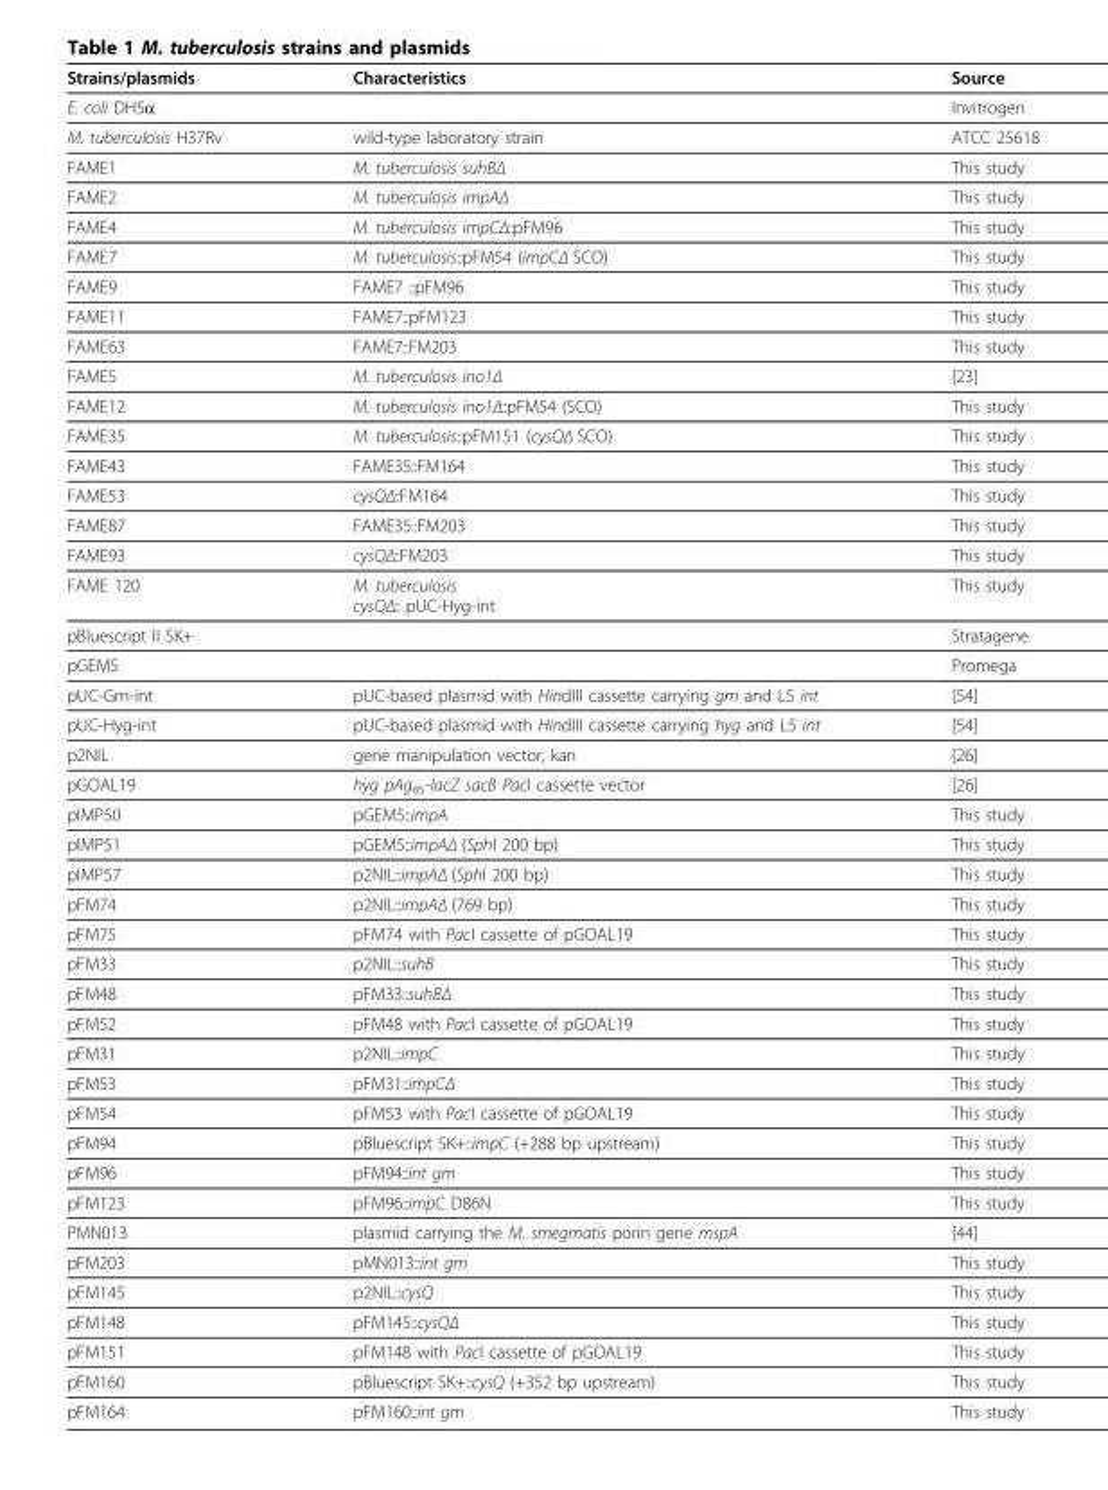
<table><thead><tr><td>Strains/plasmids</td><td>Characteristics</td><td>Source</td></tr></thead><tbody><tr><td>E. coli DH5α</td><td></td><td>Invitrogen</td></tr><tr><td>M. tuberculosis H37Rv</td><td>wild-type laboratory strain</td><td>ATCC 25618</td></tr><tr><td>FAME1</td><td>M. tuberculosis suhBΔ</td><td>This study</td></tr><tr><td>FAME2</td><td>M. tuberculosis impAΔ</td><td>This study</td></tr><tr><td>FAME4</td><td>M. tuberculosis impCΔ::pFM96</td><td>This study</td></tr><tr><td>FAME7</td><td>M. tuberculosis::pFM54 (impCΔ SCO)</td><td>This study</td></tr><tr><td>FAME9</td><td>FAME7 ::pFM96</td><td>This study</td></tr><tr><td>FAME11</td><td>FAME7::pFM123</td><td>This study</td></tr><tr><td>FAME63</td><td>FAME7::FM203</td><td>This study</td></tr><tr><td>FAME5</td><td>M. tuberculosis ino1Δ</td><td>[23]</td></tr><tr><td>FAME12</td><td>M. tuberculosis ino1Δ::pFM54 (SCO)</td><td>This study</td></tr><tr><td>FAME35</td><td>M. tuberculosis::pFM151 (cysQΔ SCO)</td><td>This study</td></tr><tr><td>FAME43</td><td>FAME35::FM164</td><td>This study</td></tr><tr><td>FAME53</td><td>cysQΔ::FM164</td><td>This study</td></tr><tr><td>FAME87</td><td>FAME35::FM203</td><td>This study</td></tr><tr><td>FAME93</td><td>cysQΔ::FM203</td><td>This study</td></tr><tr><td>FAME 120</td><td>M. tuberculosis cysQΔ:: pUC-Hyg-int</td><td>This study</td></tr><tr><td>pBluescript II SK+</td><td></td><td>Stratagene</td></tr><tr><td>pGEM5</td><td></td><td>Promega</td></tr><tr><td>pUC-Gm-int</td><td>pUC-based plasmid with HindIII cassette carrying gm and L5 int</td><td>[54]</td></tr><tr><td>pUC-Hyg-int</td><td>pUC-based plasmid with HindIII cassette carrying hyg and L5 int</td><td>[54]</td></tr><tr><td>p2NIL</td><td>gene manipulation vector, kan</td><td>[26]</td></tr><tr><td>pGOAL19</td><td>hyg pAg<sub>85</sub>-lacZ sacB PacI cassette vector</td><td>[26]</td></tr><tr><td>pIMP50</td><td>pGEM5::impA</td><td>This study</td></tr><tr><td>pIMP51</td><td>pGEM5::impAΔ (SphI 200 bp)</td><td>This study</td></tr><tr><td>pIMP57</td><td>p2NIL::impAΔ (SphI 200 bp)</td><td>This study</td></tr><tr><td>pFM74</td><td>p2NIL::impAΔ (769 bp)</td><td>This study</td></tr><tr><td>pFM75</td><td>pFM74 with PacI cassette of pGOAL19</td><td>This study</td></tr><tr><td>pFM33</td><td>p2NIL::suhB</td><td>This study</td></tr><tr><td>pFM48</td><td>pFM33::suhBΔ</td><td>This study</td></tr><tr><td>pFM52</td><td>pFM48 with PacI cassette of pGOAL19</td><td>This study</td></tr><tr><td>pFM31</td><td>p2NIL::impC</td><td>This study</td></tr><tr><td>pFM53</td><td>pFM31::impCΔ</td><td>This study</td></tr><tr><td>pFM54</td><td>pFM53 with PacI cassette of pGOAL19</td><td>This study</td></tr><tr><td>pFM94</td><td>pBluescript SK+::impC (+288 bp upstream)</td><td>This study</td></tr><tr><td>pFM96</td><td>pFM94::int gm</td><td>This study</td></tr><tr><td>pFM123</td><td>pFM96::impC D86N</td><td>This study</td></tr><tr><td>PMN013</td><td>plasmid carrying the M. smegmatis porin gene mspA</td><td>[44]</td></tr><tr><td>pFM203</td><td>pMN013::int gm</td><td>This study</td></tr><tr><td>pFM145</td><td>p2NIL::cysQ</td><td>This study</td></tr><tr><td>pFM148</td><td>pFM145::cysQΔ</td><td>This study</td></tr><tr><td>pFM151</td><td>pFM148 with PacI cassette of pGOAL19</td><td>This study</td></tr><tr><td>pFM160</td><td>pBluescript SK+::cysQ (+352 bp upstream)</td><td>This study</td></tr><tr><td>pFM164</td><td>pFM160::int gm</td><td>This study</td></tr></tbody></table>